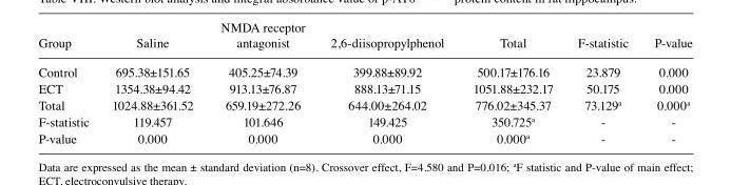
<table><thead><tr><td>Group</td><td>Saline</td><td>antagonist</td><td>2,6-diisopropylphenol</td><td>Total</td><td>F-statistic</td><td>P-value</td></tr></thead><tbody><tr><td>Control</td><td>695.38±151.65</td><td>405.25±74.39</td><td>399.88±89.92</td><td>500.17±176.16</td><td>23.879</td><td>0.000</td></tr><tr><td>ECT</td><td>1354.38±94.42</td><td>913.13±76.87</td><td>888.13±71.15</td><td>1051.88±232.17</td><td>50.175</td><td>0.000</td></tr><tr><td>Total</td><td>1024.88±361.52</td><td>659.19±272.26</td><td>644.00±264.02</td><td>776.02±345.37</td><td>73.129<sup>a</sup></td><td>0.000<sup>a</sup></td></tr><tr><td>F-statistic</td><td>119.457</td><td>101.646</td><td>149.425</td><td>350.725<sup>a</sup></td><td>-</td><td>-</td></tr><tr><td>P-value</td><td>0.000</td><td>0.000</td><td>0.000</td><td>0.000<sup>a</sup></td><td>-</td><td>-</td></tr></tbody></table>